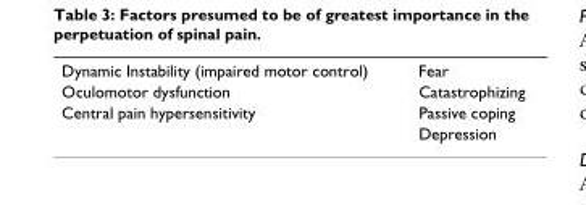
<table><tbody><tr><td>Dynamic Instability (impaired motor control)</td><td>Fear</td></tr><tr><td>Oculomotor dysfunction</td><td>Catastrophizing</td></tr><tr><td rowspan="2">Central pain hypersensitivity</td><td>Passive coping</td></tr><tr><td>Depression</td></tr></tbody></table>